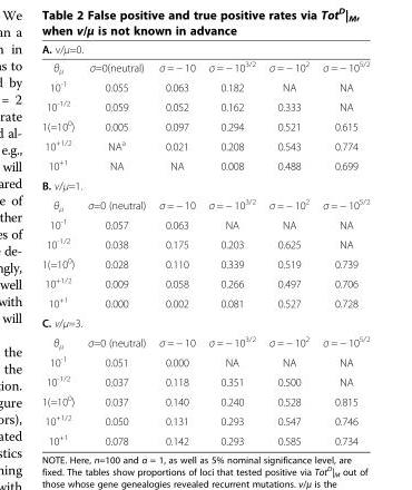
<table><thead><tr><td>A. v/μ=0.</td><td></td><td></td><td></td><td></td><td></td></tr></thead><tbody><tr><td>θ<sub>μ</sub></td><td>σ=0(neutral)</td><td>σ = − 10</td><td>σ = − 10<sup>3/2</sup></td><td>σ = − 10<sup>2</sup></td><td>σ = − 10<sup>5/2</sup></td></tr><tr><td>10<sup>-1</sup></td><td>0.055</td><td>0.063</td><td>0.182</td><td>NA</td><td>NA</td></tr><tr><td>10<sup>-1/2</sup></td><td>0.059</td><td>0.052</td><td>0.162</td><td>0.333</td><td>NA</td></tr><tr><td>1(=10<sup>0</sup>)</td><td>0.005</td><td>0.097</td><td>0.294</td><td>0.521</td><td>0.615</td></tr><tr><td>10<sup>+1/2</sup></td><td>NA<sup>a</sup></td><td>0.021</td><td>0.208</td><td>0.543</td><td>0.774</td></tr><tr><td>10<sup>+1</sup></td><td>NA</td><td>NA</td><td>0.008</td><td>0.488</td><td>0.699</td></tr><tr><td colspan="6">B. v/μ=1.</td></tr><tr><td>θ<sub>μ</sub></td><td>σ=0 (neutral)</td><td>σ = − 10</td><td>σ = − 10<sup>3/2</sup></td><td>σ = − 10<sup>2</sup></td><td>σ = − 10<sup>5/2</sup></td></tr><tr><td>10<sup>-1</sup></td><td>0.057</td><td>0.063</td><td>NA</td><td>NA</td><td>NA</td></tr><tr><td>10<sup>-1/2</sup></td><td>0.038</td><td>0.175</td><td>0.203</td><td>0.625</td><td>NA</td></tr><tr><td>1(=10<sup>0</sup>)</td><td>0.028</td><td>0.110</td><td>0.339</td><td>0.519</td><td>0.739</td></tr><tr><td>10<sup>+1/2</sup></td><td>0.009</td><td>0.058</td><td>0.266</td><td>0.497</td><td>0.706</td></tr><tr><td>10<sup>+1</sup></td><td>0.000</td><td>0.002</td><td>0.081</td><td>0.527</td><td>0.728</td></tr><tr><td colspan="6">C. v/μ=3.</td></tr><tr><td>θ<sub>μ</sub></td><td>σ=0 (neutral)</td><td>σ = − 10</td><td>σ = − 10<sup>3/2</sup></td><td>σ = − 10<sup>2</sup></td><td>σ = − 10<sup>5/2</sup></td></tr><tr><td>10<sup>-1</sup></td><td>0.051</td><td>0.000</td><td>NA</td><td>NA</td><td>NA</td></tr><tr><td>10<sup>-1/2</sup></td><td>0.037</td><td>0.118</td><td>0.351</td><td>0.500</td><td>NA</td></tr><tr><td>1(=10<sup>0</sup>)</td><td>0.037</td><td>0.140</td><td>0.240</td><td>0.528</td><td>0.815</td></tr><tr><td>10<sup>+1/2</sup></td><td>0.050</td><td>0.131</td><td>0.293</td><td>0.547</td><td>0.746</td></tr><tr><td>10<sup>+1</sup></td><td>0.078</td><td>0.142</td><td>0.293</td><td>0.585</td><td>0.734</td></tr></tbody></table>